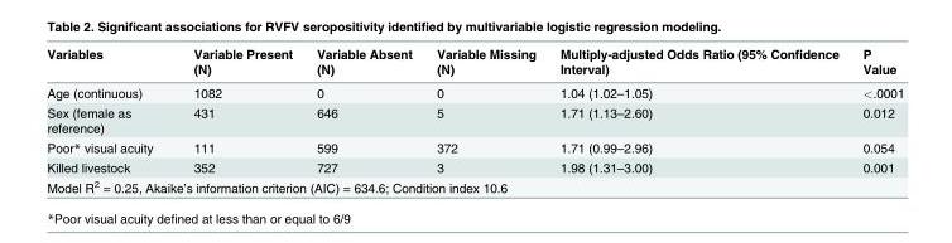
<table><thead><tr><td>Variables</td><td>Variable Present (N)</td><td>Variable Absent (N)</td><td>Variable Missing (N)</td><td>Multiply-adjusted Odds Ratio (95% Confidence Interval)</td><td>P Value</td></tr></thead><tbody><tr><td>Age (continuous)</td><td>1082</td><td>0</td><td>0</td><td>1.04 (1.02–1.05)</td><td>&lt;.0001</td></tr><tr><td>Sex (female as reference)</td><td>431</td><td>646</td><td>5</td><td>1.71 (1.13–2.60)</td><td>0.012</td></tr><tr><td>Poor* visual acuity</td><td>111</td><td>599</td><td>372</td><td>1.71 (0.99–2.96)</td><td>0.054</td></tr><tr><td>Killed livestock</td><td>352</td><td>727</td><td>3</td><td>1.98 (1.31–3.00)</td><td>0.001</td></tr><tr><td colspan="6">Model R<sup>2</sup> = 0.25, Akaike’s information criterion (AIC) = 634.6; Condition index 10.6</td></tr></tbody></table>